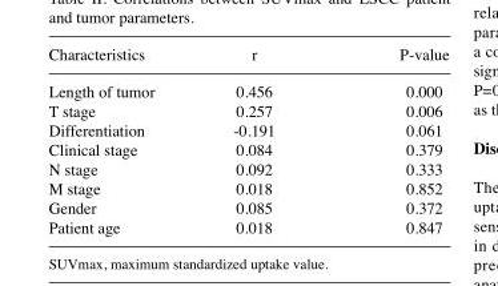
<table><thead><tr><td>Characteristics</td><td>r</td><td>P‑value</td></tr></thead><tbody><tr><td>Length of tumor</td><td>0.456</td><td>0.000</td></tr><tr><td>T stage</td><td>0.257</td><td>0.006</td></tr><tr><td>Differentiation</td><td>‑0.191</td><td>0.061</td></tr><tr><td>Clinical stage</td><td>0.084</td><td>0.379</td></tr><tr><td>N stage</td><td>0.092</td><td>0.333</td></tr><tr><td>M stage</td><td>0.018</td><td>0.852</td></tr><tr><td>Gender</td><td>0.085</td><td>0.372</td></tr><tr><td>Patient age</td><td>0.018</td><td>0.847</td></tr></tbody></table>